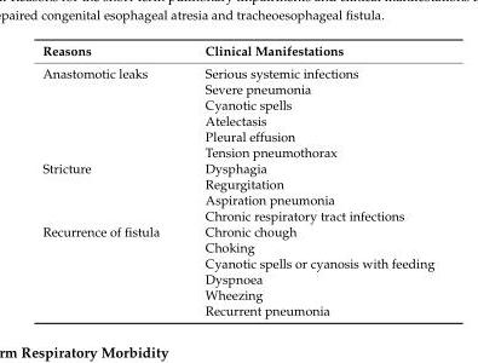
<table><thead><tr><td>Reasons</td><td>Clinical Manifestations</td></tr></thead><tbody><tr><td rowspan="6">Anastomotic leaks</td><td>Serious systemic infections</td></tr><tr><td>Severe pneumonia</td></tr><tr><td>Cyanotic spells</td></tr><tr><td>Atelectasis</td></tr><tr><td>Pleural effusion</td></tr><tr><td>Tension pneumothorax</td></tr><tr><td rowspan="4">Stricture</td><td>Dysphagia</td></tr><tr><td>Regurgitation</td></tr><tr><td>Aspiration pneumonia</td></tr><tr><td>Chronic respiratory tract infections</td></tr><tr><td rowspan="6">Recurrence of fistula</td><td>Chronic chough</td></tr><tr><td>Choking</td></tr><tr><td>Cyanotic spells or cyanosis with feeding</td></tr><tr><td>Dyspnoea</td></tr><tr><td>Wheezing</td></tr><tr><td>Recurrent pneumonia</td></tr></tbody></table>